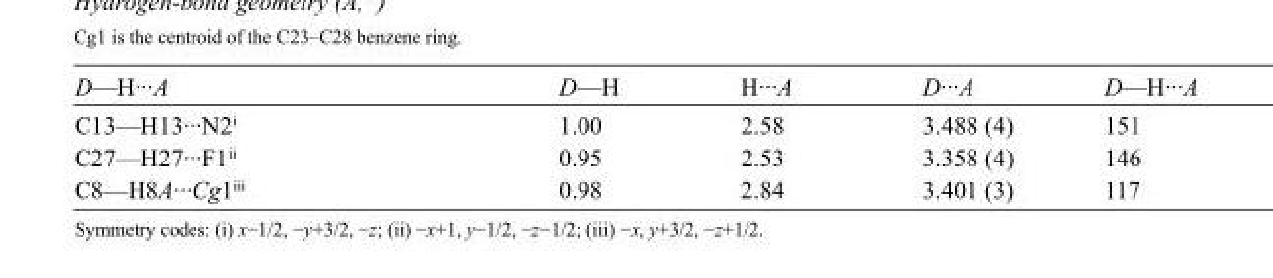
<table><tbody><tr><td>D—H···A</td><td>D—H</td><td>H···A</td><td>D···A</td><td>D—H···A</td></tr><tr><td>C13—H13···N2<sup>i</sup></td><td>1.00</td><td>2.58</td><td>3.488 (4)</td><td>151</td></tr><tr><td>C27—H27···F1<sup>ii</sup></td><td>0.95</td><td>2.53</td><td>3.358 (4)</td><td>146</td></tr><tr><td>C8—H8A···Cg1<sup>iii</sup></td><td>0.98</td><td>2.84</td><td>3.401 (3)</td><td>117</td></tr></tbody></table>